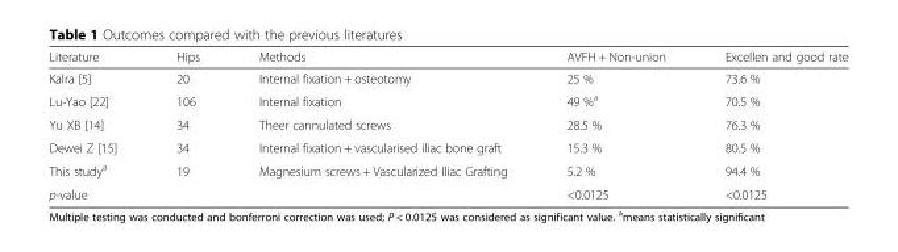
<table><thead><tr><td>Literature</td><td>Hips</td><td>Methods</td><td>AVFH + Non-union</td><td>Excellen and good rate</td></tr></thead><tbody><tr><td>Kalra [5]</td><td>20</td><td>Internal fixation + osteotomy</td><td>25 %</td><td>73.6 %</td></tr><tr><td>Lu-Yao [22]</td><td>106</td><td>Internal fixation</td><td>49 %<sup>a</sup></td><td>70.5 %</td></tr><tr><td>Yu XB [14]</td><td>34</td><td>Theer cannulated screws</td><td>28.5 %</td><td>76.3 %</td></tr><tr><td>Dewei Z [15]</td><td>34</td><td>Internal fixation + vascularised iliac bone graft</td><td>15.3 %</td><td>80.5 %</td></tr><tr><td>This study<sup>a</sup></td><td>19</td><td>Magnesium screws + Vascularized Iliac Grafting</td><td>5.2 %</td><td>94.4 %</td></tr><tr><td>p-value</td><td></td><td></td><td>&lt;0.0125</td><td>&lt;0.0125</td></tr></tbody></table>